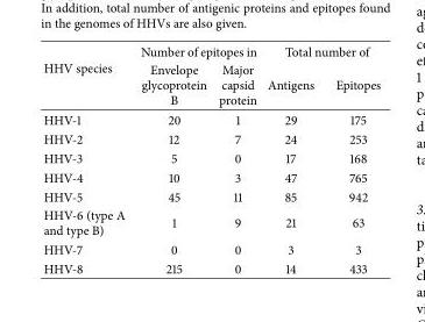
<table><thead><tr><td rowspan="2">HHV species</td><td colspan="2">Number of epitopes in</td><td colspan="2">Total number of</td></tr><tr><td>Envelope glycoprotein B</td><td>Major capsid protein</td><td>Antigens</td><td>Epitopes</td></tr></thead><tbody><tr><td>HHV-1</td><td>20</td><td>1</td><td>29</td><td>175</td></tr><tr><td>HHV-2</td><td>12</td><td>7</td><td>24</td><td>253</td></tr><tr><td>HHV-3</td><td>5</td><td>0</td><td>17</td><td>168</td></tr><tr><td>HHV-4</td><td>10</td><td>3</td><td>47</td><td>765</td></tr><tr><td>HHV-5</td><td>45</td><td>11</td><td>85</td><td>942</td></tr><tr><td>HHV-6 (type A and type B)</td><td>1</td><td>9</td><td>21</td><td>63</td></tr><tr><td>HHV-7</td><td>0</td><td>0</td><td>3</td><td>3</td></tr><tr><td>HHV-8</td><td>215</td><td>0</td><td>14</td><td>433</td></tr></tbody></table>